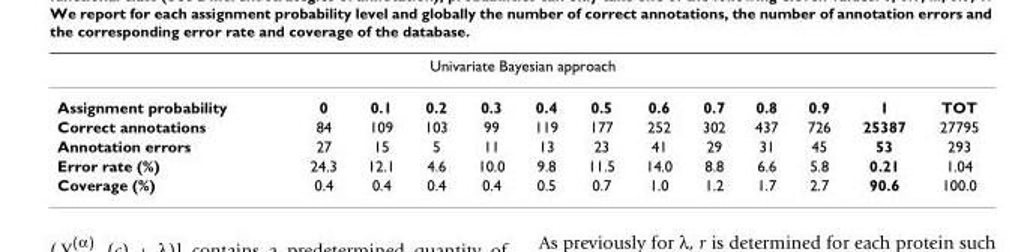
<table><thead><tr><td colspan="13">Univariate Bayesian approach</td></tr><tr><td>Assignment probability</td><td>0</td><td>0.1</td><td>0.2</td><td>0.3</td><td>0.4</td><td>0.5</td><td>0.6</td><td>0.7</td><td>0.8</td><td>0.9</td><td>1</td><td>TOT</td></tr></thead><tbody><tr><td>Correct annotations</td><td>84</td><td>109</td><td>103</td><td>99</td><td>119</td><td>177</td><td>252</td><td>302</td><td>437</td><td>726</td><td>25387</td><td>27795</td></tr><tr><td>Annotation errors</td><td>27</td><td>15</td><td>5</td><td>11</td><td>13</td><td>23</td><td>41</td><td>29</td><td>31</td><td>45</td><td>53</td><td>293</td></tr><tr><td>Error rate (%)</td><td>24.3</td><td>12.1</td><td>4.6</td><td>10.0</td><td>9.8</td><td>11.5</td><td>14.0</td><td>8.8</td><td>6.6</td><td>5.8</td><td>0.21</td><td>1.04</td></tr><tr><td>Coverage (%)</td><td>0.4</td><td>0.4</td><td>0.4</td><td>0.4</td><td>0.5</td><td>0.7</td><td>1.0</td><td>1.2</td><td>1.7</td><td>2.7</td><td>90.6</td><td>100.0</td></tr></tbody></table>